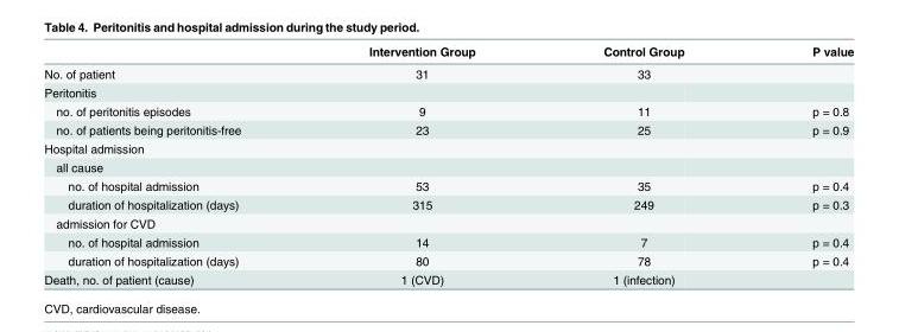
<table><thead><tr><td></td><td>Intervention Group</td><td>Control Group</td><td>P value</td></tr></thead><tbody><tr><td>No. of patient</td><td>31</td><td>33</td><td></td></tr><tr><td colspan="4">Peritonitis</td></tr><tr><td>no. of peritonitis episodes</td><td>9</td><td>11</td><td>p = 0.8</td></tr><tr><td>no. of patients being peritonitis-free</td><td>23</td><td>25</td><td>p = 0.9</td></tr><tr><td colspan="4">Hospital admission</td></tr><tr><td colspan="4">all cause</td></tr><tr><td>no. of hospital admission</td><td>53</td><td>35</td><td>p = 0.4</td></tr><tr><td>duration of hospitalization (days)</td><td>315</td><td>249</td><td>p = 0.3</td></tr><tr><td colspan="4">admission for CVD</td></tr><tr><td>no. of hospital admission</td><td>14</td><td>7</td><td>p = 0.4</td></tr><tr><td>duration of hospitalization (days)</td><td>80</td><td>78</td><td>p = 0.4</td></tr><tr><td>Death, no. of patient (cause)</td><td>1 (CVD)</td><td>1 (infection)</td><td></td></tr></tbody></table>